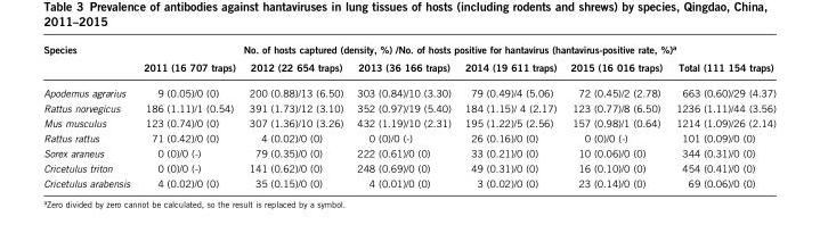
<table><thead><tr><td rowspan="2">Species</td><td colspan="6">No. of hosts captured (density, %) /No. of hosts positive for hantavirus (hantavirus-positive rate, %)<sup>a</sup></td></tr><tr><td>2011 (16 707 traps)</td><td>2012 (22 654 traps)</td><td>2013 (36 166 traps)</td><td>2014 (19 611 traps)</td><td>2015 (16 016 traps)</td><td>Total (111 154 traps)</td></tr></thead><tbody><tr><td>Apodemus agrarius</td><td>9 (0.05)/0 (0)</td><td>200 (0.88)/13 (6.50)</td><td>303 (0.84)/10 (3.30)</td><td>79 (0.49)/4 (5.06)</td><td>72 (0.45)/2 (2.78)</td><td>663 (0.60)/29 (4.37)</td></tr><tr><td>Rattus norvegicus</td><td>186 (1.11)/1 (0.54)</td><td>391 (1.73)/12 (3.10)</td><td>352 (0.97)/19 (5.40)</td><td>184 (1.15)/ 4 (2.17)</td><td>123 (0.77)/8 (6.50)</td><td>1236 (1.11)/44 (3.56)</td></tr><tr><td>Mus musculus</td><td>123 (0.74)/0 (0)</td><td>307 (1.36)/10 (3.26)</td><td>432 (1.19)/10 (2.31)</td><td>195 (1.22)/5 (2.56)</td><td>157 (0.98)/1 (0.64)</td><td>1214 (1.09)/26 (2.14)</td></tr><tr><td>Rattus rattus</td><td>71 (0.42)/0 (0)</td><td>4 (0.02)/0 (0)</td><td>0 (0)/0 (-)</td><td>26 (0.16)/0 (0)</td><td>0 (0)/0 (-)</td><td>101 (0.09)/0 (0)</td></tr><tr><td>Sorex araneus</td><td>0 (0)/0 (-)</td><td>79 (0.35)/0 (0)</td><td>222 (0.61)/0 (0)</td><td>33 (0.21)/0 (0)</td><td>10 (0.06)/0 (0)</td><td>344 (0.31)/0 (0)</td></tr><tr><td>Cricetulus triton</td><td>0 (0)/0 (-)</td><td>141 (0.62)/0 (0)</td><td>248 (0.69)/0 (0)</td><td>49 (0.31)/0 (0)</td><td>16 (0.10)/0 (0)</td><td>454 (0.41)/0 (0)</td></tr><tr><td>Cricetulus arabensis</td><td>4 (0.02)/0 (0)</td><td>35 (0.15)/0 (0)</td><td>4 (0.01)/0 (0)</td><td>3 (0.02)/0 (0)</td><td>23 (0.14)/0 (0)</td><td>69 (0.06)/0 (0)</td></tr></tbody></table>